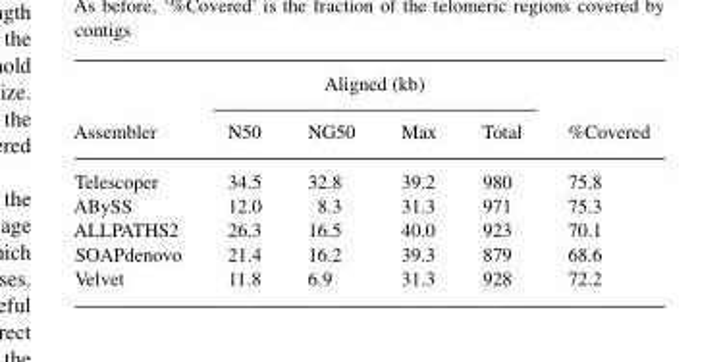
<table><thead><tr><td rowspan="2">Assembler</td><td colspan="4">Aligned (kb)</td><td rowspan="2">%Covered</td></tr><tr><td>N50</td><td>NG50</td><td>Max</td><td>Total</td></tr></thead><tbody><tr><td>Telescoper</td><td>34.5</td><td>32.8</td><td>39.2</td><td>980</td><td>75.8</td></tr><tr><td>ABySS</td><td>12.0</td><td>8.3</td><td>31.3</td><td>971</td><td>75.3</td></tr><tr><td>ALLPATHS2</td><td>26.3</td><td>16.5</td><td>40.0</td><td>923</td><td>70.1</td></tr><tr><td>SOAPdenovo</td><td>21.4</td><td>16.2</td><td>39.3</td><td>879</td><td>68.6</td></tr><tr><td>Velvet</td><td>11.8</td><td>6.9</td><td>31.3</td><td>928</td><td>72.2</td></tr></tbody></table>